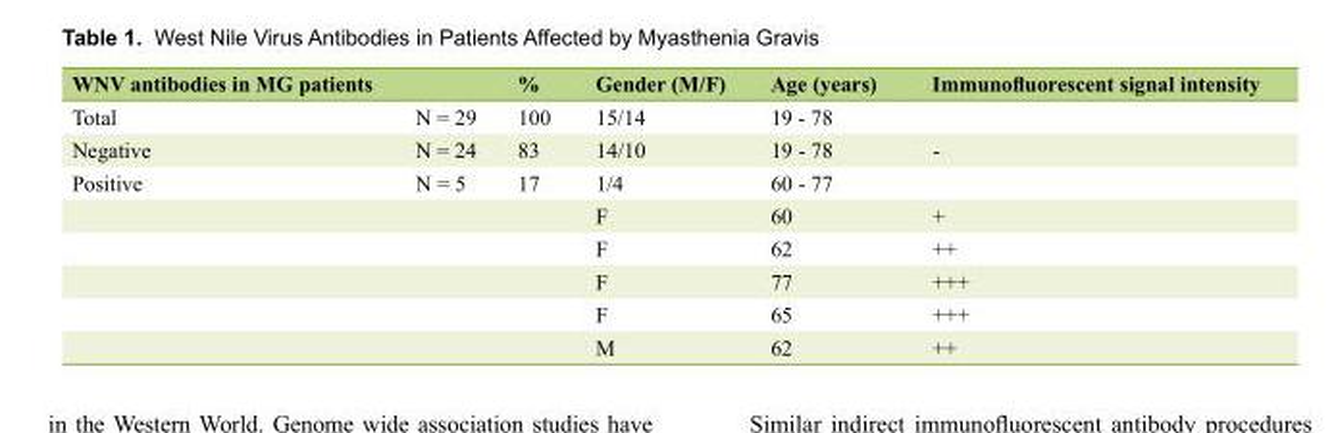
<table><thead><tr><td>WNV antibodies in MG patients</td><td></td><td>%</td><td>Gender (M/F)</td><td>Age (years)</td><td>Immunofluorescent signal intensity</td></tr></thead><tbody><tr><td>Total</td><td>N = 29</td><td>100</td><td>15/14</td><td>19 - 78</td><td></td></tr><tr><td>Negative</td><td>N = 24</td><td>83</td><td>14/10</td><td>19 - 78</td><td>-</td></tr><tr><td rowspan="6">Positive</td><td>N = 5</td><td>17</td><td>1/4</td><td>60 - 77</td><td></td></tr><tr><td></td><td></td><td>F</td><td>60</td><td>+</td></tr><tr><td></td><td></td><td>F</td><td>62</td><td>++</td></tr><tr><td></td><td></td><td>F</td><td>77</td><td>+++</td></tr><tr><td></td><td></td><td>F</td><td>65</td><td>+++</td></tr><tr><td></td><td></td><td>M</td><td>62</td><td>++</td></tr></tbody></table>